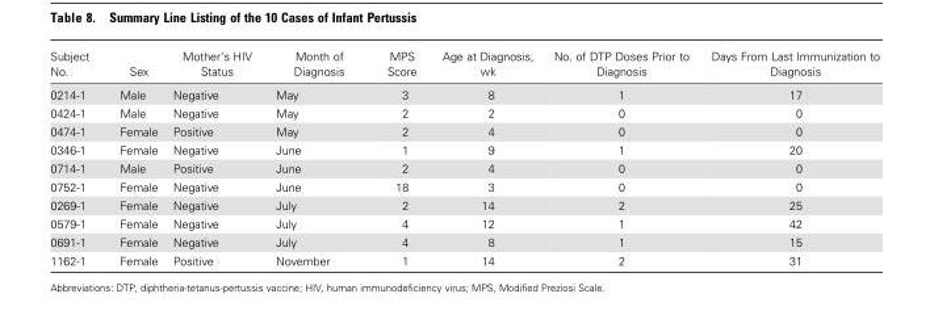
<table><thead><tr><td>Subject No.</td><td>Sex</td><td>Mother’s HIV Status</td><td>Month of Diagnosis</td><td>MPS Score</td><td>Age at Diagnosis, wk</td><td>No. of DTP Doses Prior to Diagnosis</td><td>Days From Last Immunization to Diagnosis</td></tr></thead><tbody><tr><td>0214-1</td><td>Male</td><td>Negative</td><td>May</td><td>3</td><td>8</td><td>1</td><td>17</td></tr><tr><td>0424-1</td><td>Male</td><td>Negative</td><td>May</td><td>2</td><td>2</td><td>0</td><td>0</td></tr><tr><td>0474-1</td><td>Female</td><td>Positive</td><td>May</td><td>2</td><td>4</td><td>0</td><td>0</td></tr><tr><td>0346-1</td><td>Female</td><td>Negative</td><td>June</td><td>1</td><td>9</td><td>1</td><td>20</td></tr><tr><td>0714-1</td><td>Male</td><td>Positive</td><td>June</td><td>2</td><td>4</td><td>0</td><td>0</td></tr><tr><td>0752-1</td><td>Female</td><td>Negative</td><td>June</td><td>18</td><td>3</td><td>0</td><td>0</td></tr><tr><td>0269-1</td><td>Female</td><td>Negative</td><td>July</td><td>2</td><td>14</td><td>2</td><td>25</td></tr><tr><td>0579-1</td><td>Female</td><td>Negative</td><td>July</td><td>4</td><td>12</td><td>1</td><td>42</td></tr><tr><td>0691-1</td><td>Female</td><td>Negative</td><td>July</td><td>4</td><td>8</td><td>1</td><td>15</td></tr><tr><td>1162-1</td><td>Female</td><td>Positive</td><td>November</td><td>1</td><td>14</td><td>2</td><td>31</td></tr></tbody></table>